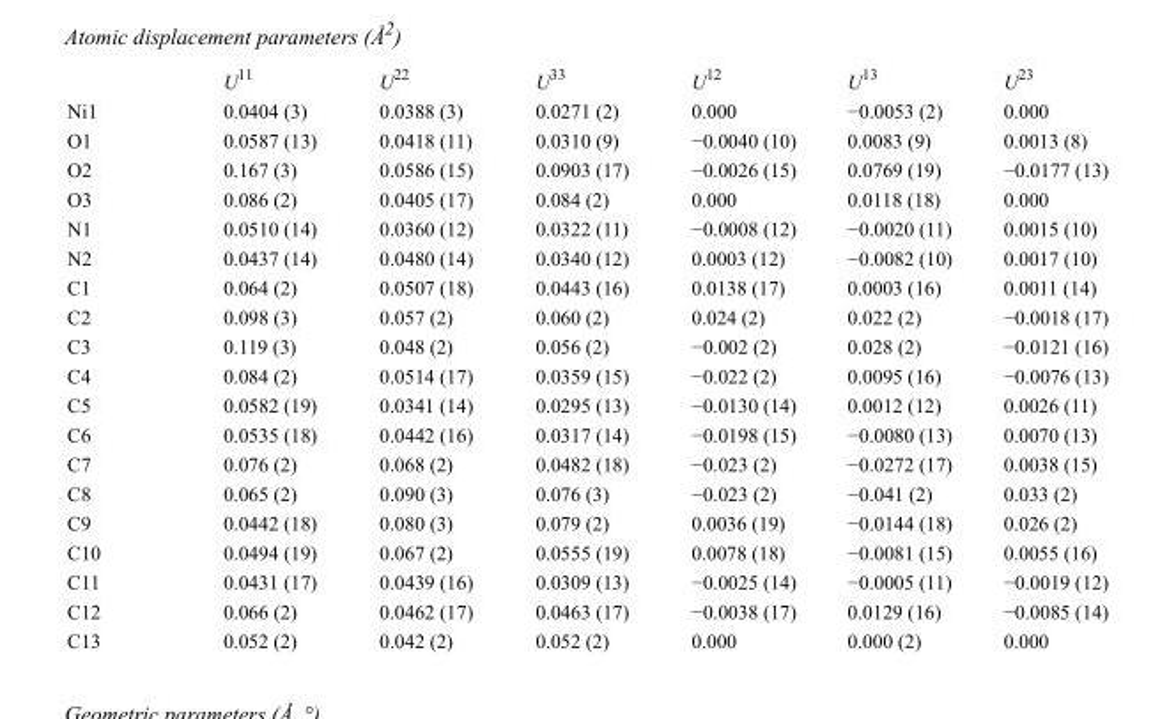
<table><thead><tr><td></td><td>U<sup>11</sup></td><td>U<sup>22</sup></td><td>U<sup>33</sup></td><td>U<sup>12</sup></td><td>U<sup>13</sup></td><td>U<sup>23</sup></td></tr></thead><tbody><tr><td>Ni1</td><td>0.0404 (3)</td><td>0.0388 (3)</td><td>0.0271 (2)</td><td>0.000</td><td>−0.0053 (2)</td><td>0.000</td></tr><tr><td>O1</td><td>0.0587 (13)</td><td>0.0418 (11)</td><td>0.0310 (9)</td><td>−0.0040 (10)</td><td>0.0083 (9)</td><td>0.0013 (8)</td></tr><tr><td>O2</td><td>0.167 (3)</td><td>0.0586 (15)</td><td>0.0903 (17)</td><td>−0.0026 (15)</td><td>0.0769 (19)</td><td>−0.0177 (13)</td></tr><tr><td>O3</td><td>0.086 (2)</td><td>0.0405 (17)</td><td>0.084 (2)</td><td>0.000</td><td>0.0118 (18)</td><td>0.000</td></tr><tr><td>N1</td><td>0.0510 (14)</td><td>0.0360 (12)</td><td>0.0322 (11)</td><td>−0.0008 (12)</td><td>−0.0020 (11)</td><td>0.0015 (10)</td></tr><tr><td>N2</td><td>0.0437 (14)</td><td>0.0480 (14)</td><td>0.0340 (12)</td><td>0.0003 (12)</td><td>−0.0082 (10)</td><td>0.0017 (10)</td></tr><tr><td>C1</td><td>0.064 (2)</td><td>0.0507 (18)</td><td>0.0443 (16)</td><td>0.0138 (17)</td><td>0.0003 (16)</td><td>0.0011 (14)</td></tr><tr><td>C2</td><td>0.098 (3)</td><td>0.057 (2)</td><td>0.060 (2)</td><td>0.024 (2)</td><td>0.022 (2)</td><td>−0.0018 (17)</td></tr><tr><td>C3</td><td>0.119 (3)</td><td>0.048 (2)</td><td>0.056 (2)</td><td>−0.002 (2)</td><td>0.028 (2)</td><td>−0.0121 (16)</td></tr><tr><td>C4</td><td>0.084 (2)</td><td>0.0514 (17)</td><td>0.0359 (15)</td><td>−0.022 (2)</td><td>0.0095 (16)</td><td>−0.0076 (13)</td></tr><tr><td>C5</td><td>0.0582 (19)</td><td>0.0341 (14)</td><td>0.0295 (13)</td><td>−0.0130 (14)</td><td>0.0012 (12)</td><td>0.0026 (11)</td></tr><tr><td>C6</td><td>0.0535 (18)</td><td>0.0442 (16)</td><td>0.0317 (14)</td><td>−0.0198 (15)</td><td>−0.0080 (13)</td><td>0.0070 (13)</td></tr><tr><td>C7</td><td>0.076 (2)</td><td>0.068 (2)</td><td>0.0482 (18)</td><td>−0.023 (2)</td><td>−0.0272 (17)</td><td>0.0038 (15)</td></tr><tr><td>C8</td><td>0.065 (2)</td><td>0.090 (3)</td><td>0.076 (3)</td><td>−0.023 (2)</td><td>−0.041 (2)</td><td>0.033 (2)</td></tr><tr><td>C9</td><td>0.0442 (18)</td><td>0.080 (3)</td><td>0.079 (2)</td><td>0.0036 (19)</td><td>−0.0144 (18)</td><td>0.026 (2)</td></tr><tr><td>C10</td><td>0.0494 (19)</td><td>0.067 (2)</td><td>0.0555 (19)</td><td>0.0078 (18)</td><td>−0.0081 (15)</td><td>0.0055 (16)</td></tr><tr><td>C11</td><td>0.0431 (17)</td><td>0.0439 (16)</td><td>0.0309 (13)</td><td>−0.0025 (14)</td><td>−0.0005 (11)</td><td>−0.0019 (12)</td></tr><tr><td>C12</td><td>0.066 (2)</td><td>0.0462 (17)</td><td>0.0463 (17)</td><td>−0.0038 (17)</td><td>0.0129 (16)</td><td>−0.0085 (14)</td></tr><tr><td>C13</td><td>0.052 (2)</td><td>0.042 (2)</td><td>0.052 (2)</td><td>0.000</td><td>0.000 (2)</td><td>0.000</td></tr></tbody></table>